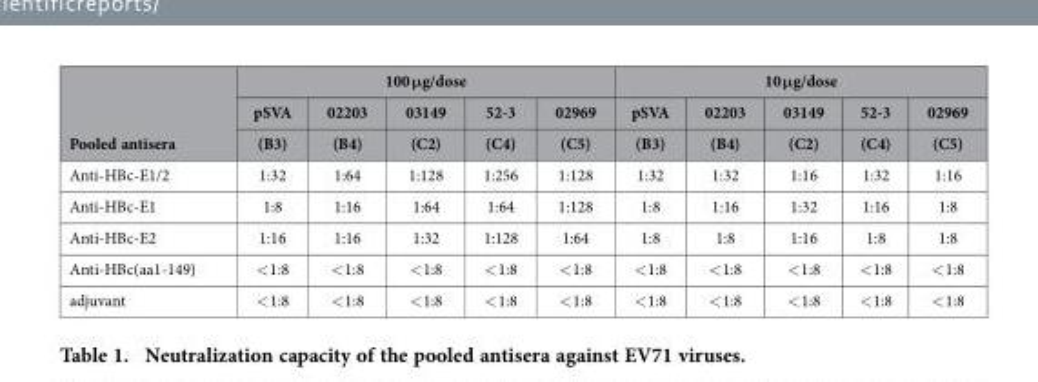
<table><thead><tr><td rowspan="3">Pooled antisera</td><td colspan="5">100 μg/dose</td><td colspan="5">10 μg/dose</td></tr><tr><td rowspan="2">pSVA (B3)</td><td rowspan="2">02203 (B4)</td><td rowspan="2">03149 (C2)</td><td rowspan="2">52-3 (C4)</td><td rowspan="2">02969 (C5)</td><td rowspan="2">pSVA (B3)</td><td rowspan="2">02203 (B4)</td><td rowspan="2">03149 (C2)</td><td rowspan="2">52-3 (C4)</td><td rowspan="2">02969 (C5)</td></tr><tr></tr></thead><tbody><tr><td>Anti-HBc-E1/2</td><td>1:32</td><td>1:64</td><td>1:128</td><td>1:256</td><td>1:128</td><td>1:32</td><td>1:32</td><td>1:16</td><td>1:32</td><td>1:16</td></tr><tr><td>Anti-HBc-E1</td><td>1:8</td><td>1:16</td><td>1:64</td><td>1:64</td><td>1:128</td><td>1:8</td><td>1:16</td><td>1:32</td><td>1:16</td><td>1:8</td></tr><tr><td>Anti-HBc-E2</td><td>1:16</td><td>1:16</td><td>1:32</td><td>1:128</td><td>1:64</td><td>1:8</td><td>1:8</td><td>1:16</td><td>1:8</td><td>1:8</td></tr><tr><td>Anti-HBc(aa1-149)</td><td>&lt; 1:8</td><td>&lt; 1:8</td><td>&lt; 1:8</td><td>&lt; 1:8</td><td>&lt; 1:8</td><td>&lt; 1:8</td><td>&lt; 1:8</td><td>&lt; 1:8</td><td>&lt; 1:8</td><td>&lt; 1:8</td></tr><tr><td>adjuvant</td><td>&lt; 1:8</td><td>&lt; 1:8</td><td>&lt; 1:8</td><td>&lt; 1:8</td><td>&lt; 1:8</td><td>&lt; 1:8</td><td>&lt; 1:8</td><td>&lt; 1:8</td><td>&lt; 1:8</td><td>&lt; 1:8</td></tr></tbody></table>